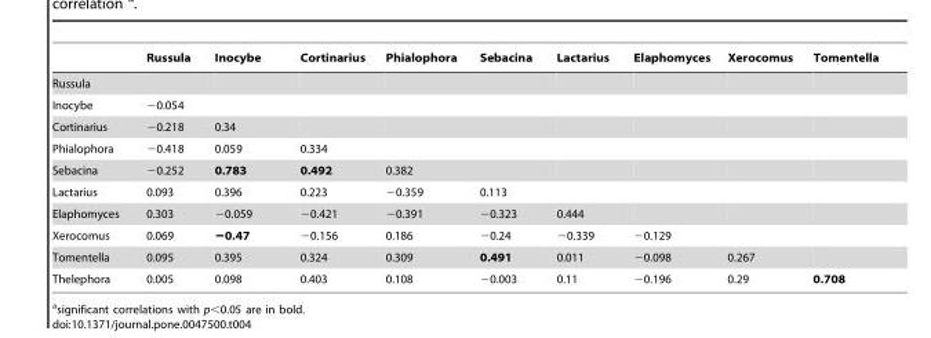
<table><thead><tr><td></td><td>Russula</td><td>Inocybe</td><td>Cortinarius</td><td>Phialophora</td><td>Sebacina</td><td>Lactarius</td><td>Elaphomyces</td><td>Xerocomus</td><td>Tomentella</td></tr></thead><tbody><tr><td colspan="10">Russula</td></tr><tr><td>Inocybe</td><td>−0.054</td><td></td><td></td><td></td><td></td><td></td><td></td><td></td><td></td></tr><tr><td>Cortinarius</td><td>−0.218</td><td>0.34</td><td></td><td></td><td></td><td></td><td></td><td></td><td></td></tr><tr><td>Phialophora</td><td>−0.418</td><td>0.059</td><td>0.334</td><td></td><td></td><td></td><td></td><td></td><td></td></tr><tr><td>Sebacina</td><td>−0.252</td><td>0.783</td><td>0.492</td><td>0.382</td><td></td><td></td><td></td><td></td><td></td></tr><tr><td>Lactarius</td><td>0.093</td><td>0.396</td><td>0.223</td><td>−0.359</td><td>0.113</td><td></td><td></td><td></td><td></td></tr><tr><td>Elaphomyces</td><td>0.303</td><td>−0.059</td><td>−0.421</td><td>−0.391</td><td>−0.323</td><td>0.444</td><td></td><td></td><td></td></tr><tr><td>Xerocomus</td><td>0.069</td><td>−0.47</td><td>−0.156</td><td>0.186</td><td>−0.24</td><td>−0.339</td><td>−0.129</td><td></td><td></td></tr><tr><td>Tomentella</td><td>0.095</td><td>0.395</td><td>0.324</td><td>0.309</td><td>0.491</td><td>0.011</td><td>−0.098</td><td>0.267</td><td></td></tr><tr><td>Thelephora</td><td>0.005</td><td>0.098</td><td>0.403</td><td>0.108</td><td>−0.003</td><td>0.11</td><td>−0.196</td><td>0.29</td><td>0.708</td></tr></tbody></table>